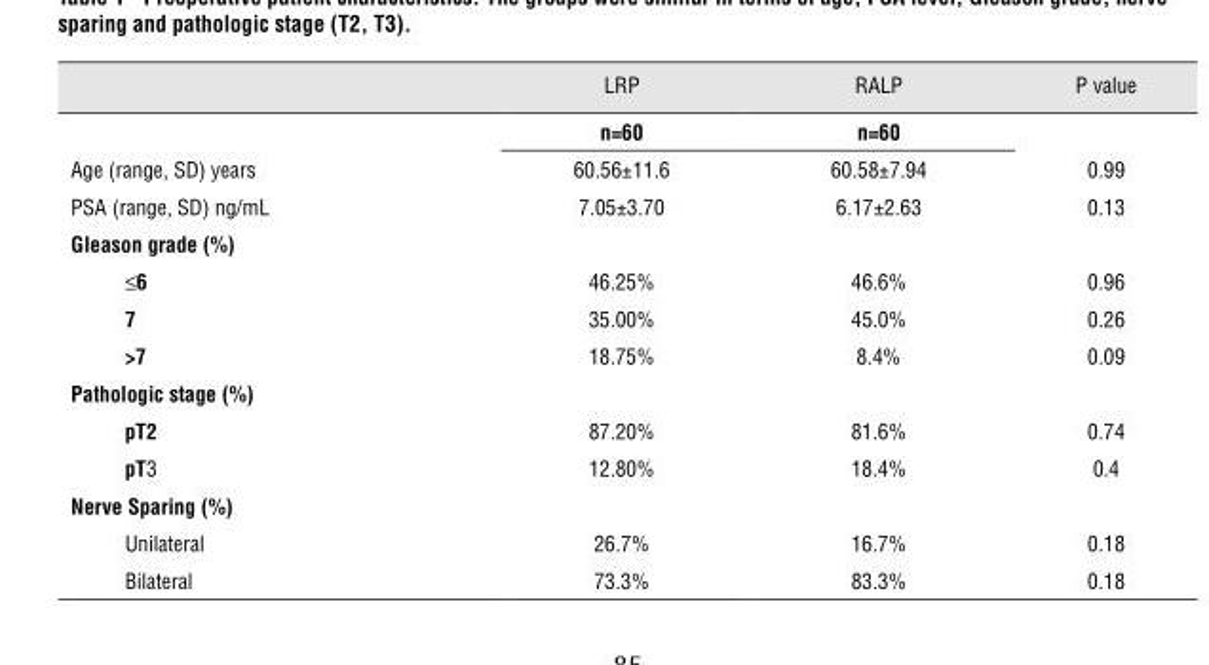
<table><thead><tr><td></td><td>LRP</td><td>RALP</td><td>P value</td></tr></thead><tbody><tr><td></td><td>n=60</td><td>n=60</td><td></td></tr><tr><td>Age (range, SD) years</td><td>60.56±11.6</td><td>60.58±7.94</td><td>0.99</td></tr><tr><td>PSA (range, SD) ng/mL</td><td>7.05±3.70</td><td>6.17±2.63</td><td>0.13</td></tr><tr><td colspan="4">gleason grade (%)</td></tr><tr><td>≤6</td><td>46.25%</td><td>46.6%</td><td>0.96</td></tr><tr><td>7</td><td>35.00%</td><td>45.0%</td><td>0.26</td></tr><tr><td>&gt;7</td><td>18.75%</td><td>8.4%</td><td>0.09</td></tr><tr><td colspan="4">Pathologic stage (%)</td></tr><tr><td>pT2</td><td>87.20%</td><td>81.6%</td><td>0.74</td></tr><tr><td>pT3</td><td>12.80%</td><td>18.4%</td><td>0.4</td></tr><tr><td colspan="4">Nerve sparing (%)</td></tr><tr><td>Unilateral</td><td>26.7%</td><td>16.7%</td><td>0.18</td></tr><tr><td>Bilateral</td><td>73.3%</td><td>83.3%</td><td>0.18</td></tr></tbody></table>